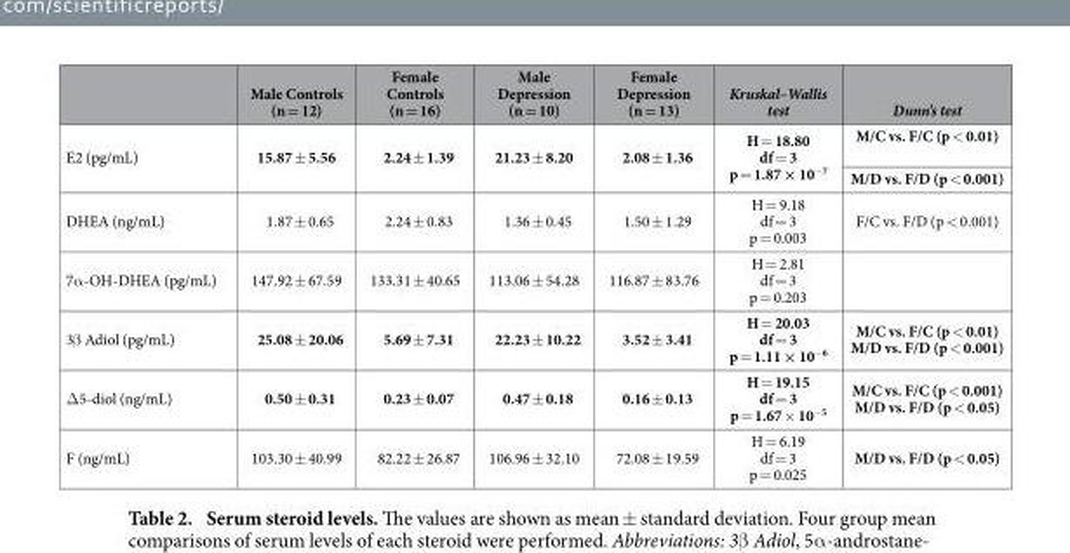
<table><thead><tr><td></td><td>Male Controls (n = 12)</td><td>Female Controls (n = 16)</td><td>Male Depression (n = 10)</td><td>Female Depression (n = 13)</td><td>Kruskal–Wallis test</td><td>Dunn’s test</td></tr></thead><tbody><tr><td rowspan="2">E2 (pg/mL)</td><td rowspan="2">15.87 ± 5.56</td><td rowspan="2">2.24 ± 1.39</td><td rowspan="2">21.23 ± 8.20</td><td rowspan="2">2.08 ± 1.36</td><td rowspan="2">H = 18.80 df = 3 p = 1.87 × 10<sup>−7</sup></td><td>M/C vs. F/C (p &lt; 0.01)</td></tr><tr><td>M/D vs. F/D (p &lt; 0.001)</td></tr><tr><td>DHEA (ng/mL)</td><td>1.87 ± 0.65</td><td>2.24 ± 0.83</td><td>1.36 ± 0.45</td><td>1.50 ± 1.29</td><td>H = 9.18 df = 3 p = 0.003</td><td>F/C vs. F/D (p &lt; 0.001)</td></tr><tr><td>7α -OH-DHEA (pg/mL)</td><td>147.92 ± 67.59</td><td>133.31 ± 40.65</td><td>113.06 ± 54.28</td><td>116.87 ± 83.76</td><td>H = 2.81 df = 3 p = 0.203</td><td></td></tr><tr><td>3β Adiol (pg/mL)</td><td>25.08 ± 20.06</td><td>5.69 ± 7.31</td><td>22.23 ± 10.22</td><td>3.52 ± 3.41</td><td>H = 20.03 df = 3 p = 1.11 × 10<sup>−6</sup></td><td>M/C vs. F/C (p &lt; 0.01) M/D vs. F/D (p &lt; 0.001)</td></tr><tr><td>Δ5-diol (ng/mL)</td><td>0.50 ± 0.31</td><td>0.23 ± 0.07</td><td>0.47 ± 0.18</td><td>0.16 ± 0.13</td><td>H = 19.15 df = 3 p = 1.67 × 10<sup>−5</sup></td><td>M/C vs. F/C (p &lt; 0.001) M/D vs. F/D (p &lt; 0.05)</td></tr><tr><td>F (ng/mL)</td><td>103.30 ± 40.99</td><td>82.22 ± 26.87</td><td>106.96 ± 32.10</td><td>72.08 ± 19.59</td><td>H = 6.19 df = 3 p = 0.025</td><td>M/D vs. F/D (p &lt; 0.05)</td></tr></tbody></table>